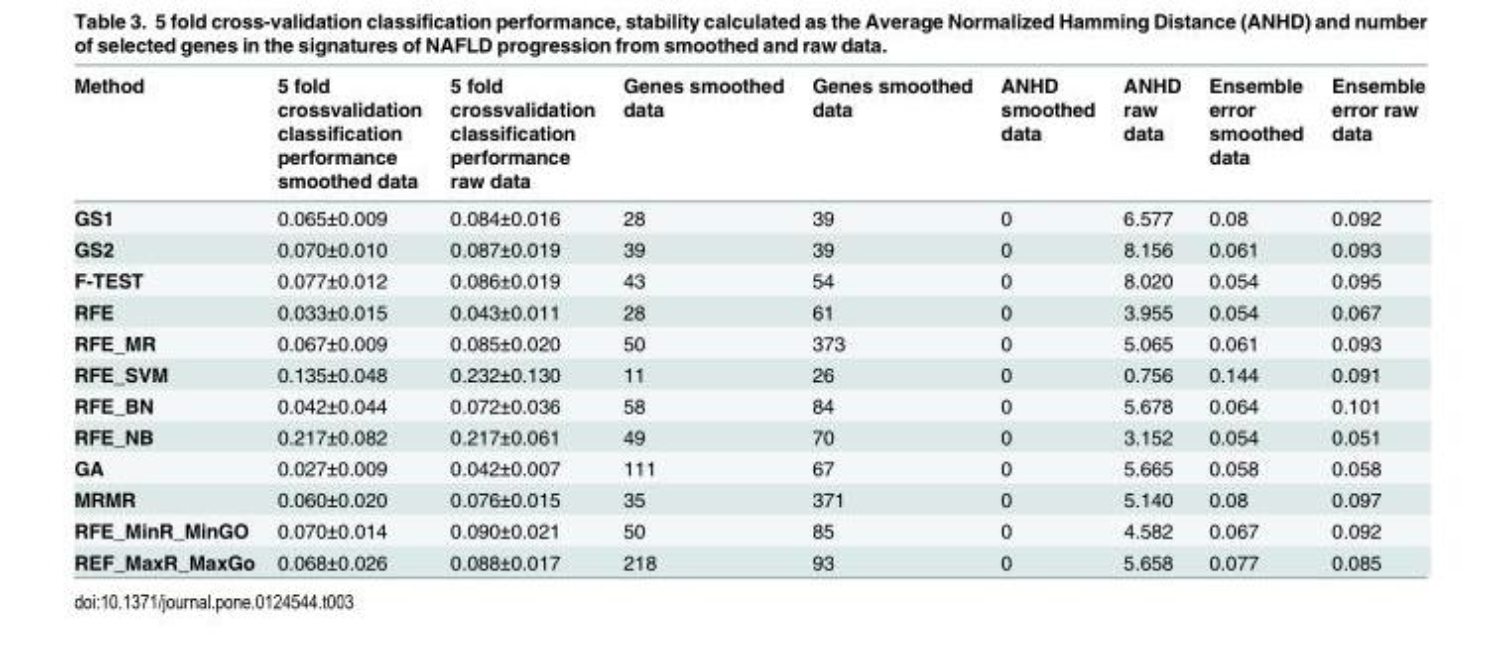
<table><thead><tr><td>Method</td><td>5 fold crossvalidation classification performance smoothed data</td><td>5 fold crossvalidation classification performance raw data</td><td>Genes smoothed data</td><td>Genes smoothed data</td><td>ANHD smoothed data</td><td>ANHD raw data</td><td>Ensemble error smoothed data</td><td>Ensemble error raw data</td></tr></thead><tbody><tr><td>GS1</td><td>0.065±0.009</td><td>0.084±0.016</td><td>28</td><td>39</td><td>0</td><td>6.577</td><td>0.08</td><td>0.092</td></tr><tr><td>GS2</td><td>0.070±0.010</td><td>0.087±0.019</td><td>39</td><td>39</td><td>0</td><td>8.156</td><td>0.061</td><td>0.093</td></tr><tr><td>F-TEST</td><td>0.077±0.012</td><td>0.086±0.019</td><td>43</td><td>54</td><td>0</td><td>8.020</td><td>0.054</td><td>0.095</td></tr><tr><td>RFE</td><td>0.033±0.015</td><td>0.043±0.011</td><td>28</td><td>61</td><td>0</td><td>3.955</td><td>0.054</td><td>0.067</td></tr><tr><td>RFE_MR</td><td>0.067±0.009</td><td>0.085±0.020</td><td>50</td><td>373</td><td>0</td><td>5.065</td><td>0.061</td><td>0.093</td></tr><tr><td>RFE_SVM</td><td>0.135±0.048</td><td>0.232±0.130</td><td>11</td><td>26</td><td>0</td><td>0.756</td><td>0.144</td><td>0.091</td></tr><tr><td>RFE_BN</td><td>0.042±0.044</td><td>0.072±0.036</td><td>58</td><td>84</td><td>0</td><td>5.678</td><td>0.064</td><td>0.101</td></tr><tr><td>RFE_NB</td><td>0.217±0.082</td><td>0.217±0.061</td><td>49</td><td>70</td><td>0</td><td>3.152</td><td>0.054</td><td>0.051</td></tr><tr><td>GA</td><td>0.027±0.009</td><td>0.042±0.007</td><td>111</td><td>67</td><td>0</td><td>5.665</td><td>0.058</td><td>0.058</td></tr><tr><td>MRMR</td><td>0.060±0.020</td><td>0.076±0.015</td><td>35</td><td>371</td><td>0</td><td>5.140</td><td>0.08</td><td>0.097</td></tr><tr><td>RFE_MinR_MinGO</td><td>0.070±0.014</td><td>0.090±0.021</td><td>50</td><td>85</td><td>0</td><td>4.582</td><td>0.067</td><td>0.092</td></tr><tr><td>REF_MaxR_MaxGo</td><td>0.068±0.026</td><td>0.088±0.017</td><td>218</td><td>93</td><td>0</td><td>5.658</td><td>0.077</td><td>0.085</td></tr></tbody></table>